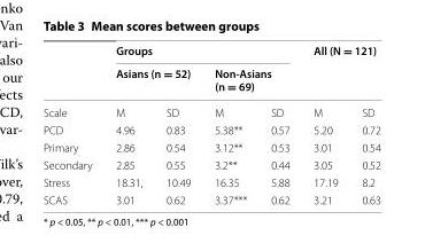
<table><thead><tr><td rowspan="3">Scale</td><td colspan="4">Groups</td><td rowspan="2" colspan="2">All (N = 121)</td></tr><tr><td colspan="2">Asians (n = 52)</td><td colspan="2">Non-Asians (n = 69)</td></tr><tr><td>M</td><td>SD</td><td>M</td><td>SD</td><td>M</td><td>SD</td></tr></thead><tbody><tr><td>PCD</td><td>4.96</td><td>0.83</td><td>5.38**</td><td>0.57</td><td>5.20</td><td>0.72</td></tr><tr><td>Primary</td><td>2.86</td><td>0.54</td><td>3.12**</td><td>0.53</td><td>3.01</td><td>0.54</td></tr><tr><td>Secondary</td><td>2.85</td><td>0.55</td><td>3.2**</td><td>0.44</td><td>3.05</td><td>0.52</td></tr><tr><td>Stress</td><td>18.31,</td><td>10.49</td><td>16.35</td><td>5.88</td><td>17.19</td><td>8.2</td></tr><tr><td>SCAS</td><td>3.01</td><td>0.62</td><td>3.37***</td><td>0.62</td><td>3.21</td><td>0.63</td></tr></tbody></table>